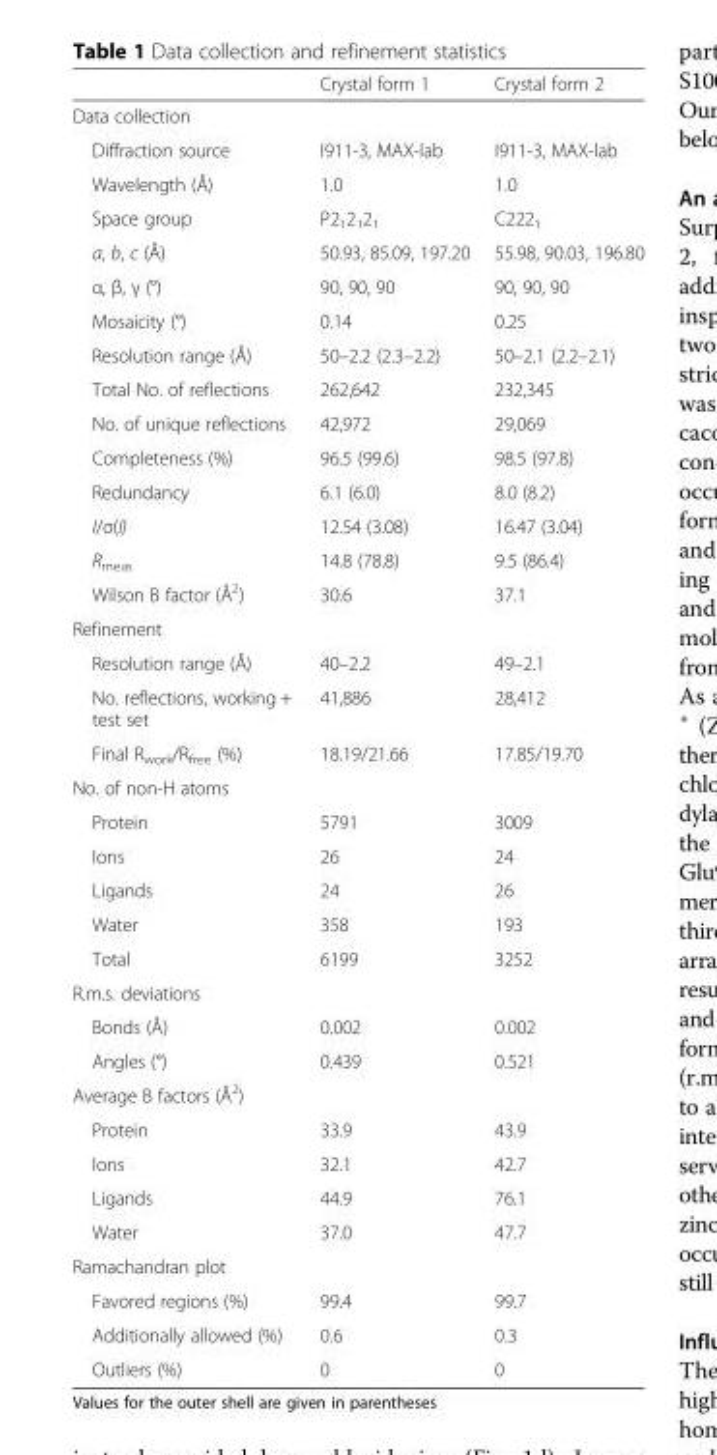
<table><thead><tr><td></td><td>Crystal form 1</td><td>Crystal form 2</td></tr></thead><tbody><tr><td colspan="3">Data collection</td></tr><tr><td>Diffraction source</td><td>I911-3, MAX-lab</td><td>I911-3, MAX-lab</td></tr><tr><td>Wavelength (Å)</td><td>1.0</td><td>1.0</td></tr><tr><td>Space group</td><td>P2<sub>1</sub>2<sub>1</sub>2<sub>1</sub></td><td>C222<sub>1</sub></td></tr><tr><td>a, b, c (Å)</td><td>50.93, 85.09, 197.20</td><td>55.98, 90.03, 196.80</td></tr><tr><td>α, β, γ (°)</td><td>90, 90, 90</td><td>90, 90, 90</td></tr><tr><td>Mosaicity (°)</td><td>0.14</td><td>0.25</td></tr><tr><td>Resolution range (Å)</td><td>50–2.2 (2.3–2.2)</td><td>50–2.1 (2.2–2.1)</td></tr><tr><td>Total No. of reflections</td><td>262,642</td><td>232,345</td></tr><tr><td>No. of unique reflections</td><td>42,972</td><td>29,069</td></tr><tr><td>Completeness (%)</td><td>96.5 (99.6)</td><td>98.5 (97.8)</td></tr><tr><td>Redundancy</td><td>6.1 (6.0)</td><td>8.0 (8.2)</td></tr><tr><td>I/σ(I)</td><td>12.54 (3.08)</td><td>16.47 (3.04)</td></tr><tr><td>R<sub>meas</sub></td><td>14.8 (78.8)</td><td>9.5 (86.4)</td></tr><tr><td>Wilson B factor (Å<sup>2</sup>)</td><td>30.6</td><td>37.1</td></tr><tr><td colspan="3">Refinement</td></tr><tr><td>Resolution range (Å)</td><td>40–2.2</td><td>49–2.1</td></tr><tr><td>No. reflections, working + test set</td><td>41,886</td><td>28,412</td></tr><tr><td>Final R<sub>work</sub>/R<sub>free</sub> (%)</td><td>18.19/21.66</td><td>17.85/19.70</td></tr><tr><td colspan="3">No. of non-H atoms</td></tr><tr><td>Protein</td><td>5791</td><td>3009</td></tr><tr><td>Ions</td><td>26</td><td>24</td></tr><tr><td>Ligands</td><td>24</td><td>26</td></tr><tr><td>Water</td><td>358</td><td>193</td></tr><tr><td>Total</td><td>6199</td><td>3252</td></tr><tr><td colspan="3">R.m.s. deviations</td></tr><tr><td>Bonds (Å)</td><td>0.002</td><td>0.002</td></tr><tr><td>Angles (°)</td><td>0.439</td><td>0.521</td></tr><tr><td colspan="3">Average B factors (Å<sup>2</sup>)</td></tr><tr><td>Protein</td><td>33.9</td><td>43.9</td></tr><tr><td>Ions</td><td>32.1</td><td>42.7</td></tr><tr><td>Ligands</td><td>44.9</td><td>76.1</td></tr><tr><td>Water</td><td>37.0</td><td>47.7</td></tr><tr><td colspan="3">Ramachandran plot</td></tr><tr><td>Favored regions (%)</td><td>99.4</td><td>99.7</td></tr><tr><td>Additionally allowed (%)</td><td>0.6</td><td>0.3</td></tr><tr><td>Outliers (%)</td><td>0</td><td>0</td></tr></tbody></table>